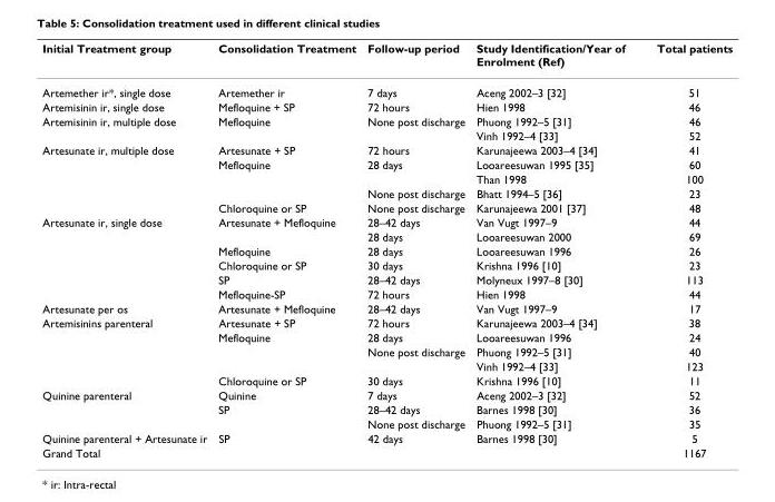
<table><thead><tr><td>Initial Treatment group</td><td>Consolidation Treatment</td><td>Follow-up period</td><td>Study Identification/Year of Enrolment (Ref)</td><td>Total patients</td></tr></thead><tbody><tr><td>Artemether ir*, single dose</td><td>Artemether ir</td><td>7 days</td><td>Aceng 2002–3 [32]</td><td>51</td></tr><tr><td>Artemisinin ir, single dose</td><td>Mefloquine + SP</td><td>72 hours</td><td>Hien 1998</td><td>46</td></tr><tr><td rowspan="2">Artemisinin ir, multiple dose</td><td>Mefloquine</td><td>None post discharge</td><td>Phuong 1992–5 [31]</td><td>46</td></tr><tr><td></td><td></td><td>Vinh 1992–4 [33]</td><td>52</td></tr><tr><td rowspan="5">Artesunate ir, multiple dose</td><td>Artesunate + SP</td><td>72 hours</td><td>Karunajeewa 2003–4 [34]</td><td>41</td></tr><tr><td>Mefloquine</td><td>28 days</td><td>Looareesuwan 1995 [35]</td><td>60</td></tr><tr><td></td><td></td><td>Than 1998</td><td>100</td></tr><tr><td></td><td>None post discharge</td><td>Bhatt 1994–5 [36]</td><td>23</td></tr><tr><td>Chloroquine or SP</td><td>None post discharge</td><td>Karunajeewa 2001 [37]</td><td>48</td></tr><tr><td rowspan="6">Artesunate ir, single dose</td><td>Artesunate + Mefloquine</td><td>28–42 days</td><td>Van Vugt 1997–9</td><td>44</td></tr><tr><td></td><td>28 days</td><td>Looareesuwan 2000</td><td>69</td></tr><tr><td>Mefloquine</td><td>28 days</td><td>Looareesuwan 1996</td><td>26</td></tr><tr><td>Chloroquine or SP</td><td>30 days</td><td>Krishna 1996 [10]</td><td>23</td></tr><tr><td>SP</td><td>28–42 days</td><td>Molyneux 1997–8 [30]</td><td>113</td></tr><tr><td>Mefloquine-SP</td><td>72 hours</td><td>Hien 1998</td><td>44</td></tr><tr><td>Artesunate per os</td><td>Artesunate + Mefloquine</td><td>28–42 days</td><td>Van Vugt 1997–9</td><td>17</td></tr><tr><td rowspan="5">Artemisinins parenteral</td><td>Artesunate + SP</td><td>72 hours</td><td>Karunajeewa 2003–4 [34]</td><td>38</td></tr><tr><td>Mefloquine</td><td>28 days</td><td>Looareesuwan 1996</td><td>24</td></tr><tr><td></td><td>None post discharge</td><td>Phuong 1992–5 [31]</td><td>40</td></tr><tr><td></td><td></td><td>Vinh 1992–4 [33]</td><td>123</td></tr><tr><td>Chloroquine or SP</td><td>30 days</td><td>Krishna 1996 [10]</td><td>11</td></tr><tr><td rowspan="3">Quinine parenteral</td><td>Quinine</td><td>7 days</td><td>Aceng 2002–3 [32]</td><td>52</td></tr><tr><td>SP</td><td>28–42 days</td><td>Barnes 1998 [30]</td><td>36</td></tr><tr><td></td><td>None post discharge</td><td>Phuong 1992–5 [31]</td><td>35</td></tr><tr><td>Quinine parenteral + Artesunate ir</td><td>SP</td><td>42 days</td><td>Barnes 1998 [30]</td><td>5</td></tr><tr><td>Grand Total</td><td></td><td></td><td></td><td>1167</td></tr></tbody></table>